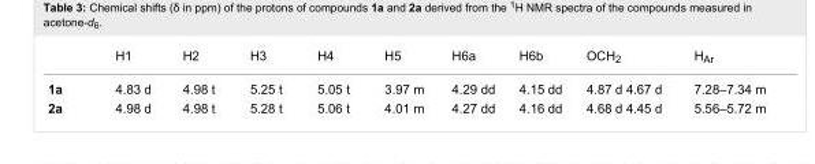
<table><thead><tr><td></td><td>H1</td><td>H2</td><td>H3</td><td>H4</td><td>H5</td><td>H6a</td><td>H6b</td><td>OCH<sub>2</sub></td><td>H<sub>Ar</sub></td></tr></thead><tbody><tr><td>1a</td><td>4.83 d</td><td>4.98 t</td><td>5.25 t</td><td>5.05 t</td><td>3.97 m</td><td>4.29 dd</td><td>4.15 dd</td><td>4.87 d 4.67 d</td><td>7.28–7.34 m</td></tr><tr><td>2a</td><td>4.98 d</td><td>4.98 t</td><td>5.28 t</td><td>5.06 t</td><td>4.01 m</td><td>4.27 dd</td><td>4.16 dd</td><td>4.68 d 4.45 d</td><td>5.56–5.72 m</td></tr></tbody></table>